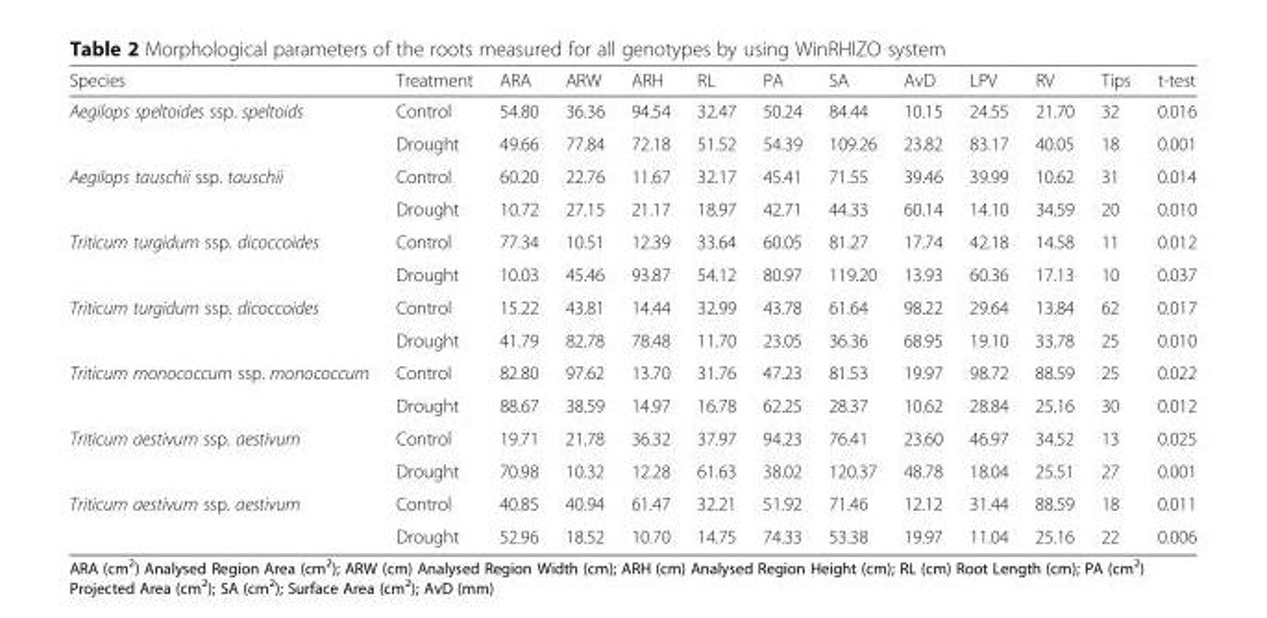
<table><thead><tr><td>Species</td><td>Treatment</td><td>ARA</td><td>ARW</td><td>ARH</td><td>RL</td><td>PA</td><td>SA</td><td>AvD</td><td>LPV</td><td>RV</td><td>Tips</td><td>t-test</td></tr></thead><tbody><tr><td rowspan="2">Aegilops speltoides ssp. speltoids</td><td>Control</td><td>54.80</td><td>36.36</td><td>94.54</td><td>32.47</td><td>50.24</td><td>84.44</td><td>10.15</td><td>24.55</td><td>21.70</td><td>32</td><td>0.016</td></tr><tr><td>Drought</td><td>49.66</td><td>77.84</td><td>72.18</td><td>51.52</td><td>54.39</td><td>109.26</td><td>23.82</td><td>83.17</td><td>40.05</td><td>18</td><td>0.001</td></tr><tr><td rowspan="2">Aegilops tauschii ssp. tauschii</td><td>Control</td><td>60.20</td><td>22.76</td><td>11.67</td><td>32.17</td><td>45.41</td><td>71.55</td><td>39.46</td><td>39.99</td><td>10.62</td><td>31</td><td>0.014</td></tr><tr><td>Drought</td><td>10.72</td><td>27.15</td><td>21.17</td><td>18.97</td><td>42.71</td><td>44.33</td><td>60.14</td><td>14.10</td><td>34.59</td><td>20</td><td>0.010</td></tr><tr><td rowspan="2">Triticum turgidum ssp. dicoccoides</td><td>Control</td><td>77.34</td><td>10.51</td><td>12.39</td><td>33.64</td><td>60.05</td><td>81.27</td><td>17.74</td><td>42.18</td><td>14.58</td><td>11</td><td>0.012</td></tr><tr><td>Drought</td><td>10.03</td><td>45.46</td><td>93.87</td><td>54.12</td><td>80.97</td><td>119.20</td><td>13.93</td><td>60.36</td><td>17.13</td><td>10</td><td>0.037</td></tr><tr><td rowspan="2">Triticum turgidum ssp. dicoccoides</td><td>Control</td><td>15.22</td><td>43.81</td><td>14.44</td><td>32.99</td><td>43.78</td><td>61.64</td><td>98.22</td><td>29.64</td><td>13.84</td><td>62</td><td>0.017</td></tr><tr><td>Drought</td><td>41.79</td><td>82.78</td><td>78.48</td><td>11.70</td><td>23.05</td><td>36.36</td><td>68.95</td><td>19.10</td><td>33.78</td><td>25</td><td>0.010</td></tr><tr><td rowspan="2">Triticum monococcum ssp. monococcum</td><td>Control</td><td>82.80</td><td>97.62</td><td>13.70</td><td>31.76</td><td>47.23</td><td>81.53</td><td>19.97</td><td>98.72</td><td>88.59</td><td>25</td><td>0.022</td></tr><tr><td>Drought</td><td>88.67</td><td>38.59</td><td>14.97</td><td>16.78</td><td>62.25</td><td>28.37</td><td>10.62</td><td>28.84</td><td>25.16</td><td>30</td><td>0.012</td></tr><tr><td rowspan="2">Triticum aestivum ssp. aestivum</td><td>Control</td><td>19.71</td><td>21.78</td><td>36.32</td><td>37.97</td><td>94.23</td><td>76.41</td><td>23.60</td><td>46.97</td><td>34.52</td><td>13</td><td>0.025</td></tr><tr><td>Drought</td><td>70.98</td><td>10.32</td><td>12.28</td><td>61.63</td><td>38.02</td><td>120.37</td><td>48.78</td><td>18.04</td><td>25.51</td><td>27</td><td>0.001</td></tr><tr><td rowspan="2">Triticum aestivum ssp. aestivum</td><td>Control</td><td>40.85</td><td>40.94</td><td>61.47</td><td>32.21</td><td>51.92</td><td>71.46</td><td>12.12</td><td>31.44</td><td>88.59</td><td>18</td><td>0.011</td></tr><tr><td>Drought</td><td>52.96</td><td>18.52</td><td>10.70</td><td>14.75</td><td>74.33</td><td>53.38</td><td>19.97</td><td>11.04</td><td>25.16</td><td>22</td><td>0.006</td></tr></tbody></table>